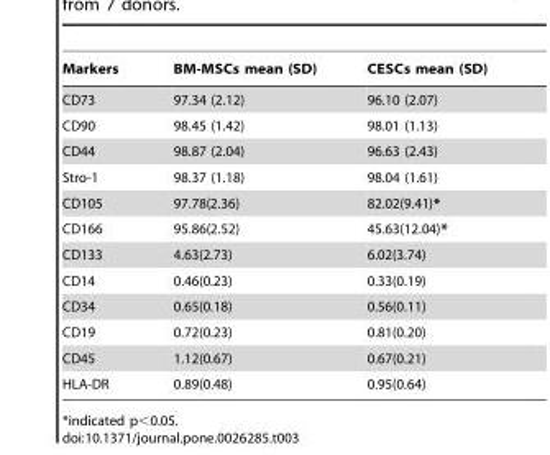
<table><thead><tr><td>Markers</td><td>BM-MSCs mean (SD)</td><td>CESCs mean (SD)</td></tr></thead><tbody><tr><td>CD73</td><td>97.34 (2.12)</td><td>96.10 (2.07)</td></tr><tr><td>CD90</td><td>98.45 (1.42)</td><td>98.01 (1.13)</td></tr><tr><td>CD44</td><td>98.87 (2.04)</td><td>96.63 (2.43)</td></tr><tr><td>Stro-1</td><td>98.37 (1.18)</td><td>98.04 (1.61)</td></tr><tr><td>CD105</td><td>97.78(2.36)</td><td>82.02(9.41)*</td></tr><tr><td>CD166</td><td>95.86(2.52)</td><td>45.63(12.04)*</td></tr><tr><td>CD133</td><td>4.63(2.73)</td><td>6.02(3.74)</td></tr><tr><td>CD14</td><td>0.46(0.23)</td><td>0.33(0.19)</td></tr><tr><td>CD34</td><td>0.65(0.18)</td><td>0.56(0.11)</td></tr><tr><td>CD19</td><td>0.72(0.23)</td><td>0.81(0.20)</td></tr><tr><td>CD45</td><td>1.12(0.67)</td><td>0.67(0.21)</td></tr><tr><td>HLA-DR</td><td>0.89(0.48)</td><td>0.95(0.64)</td></tr></tbody></table>